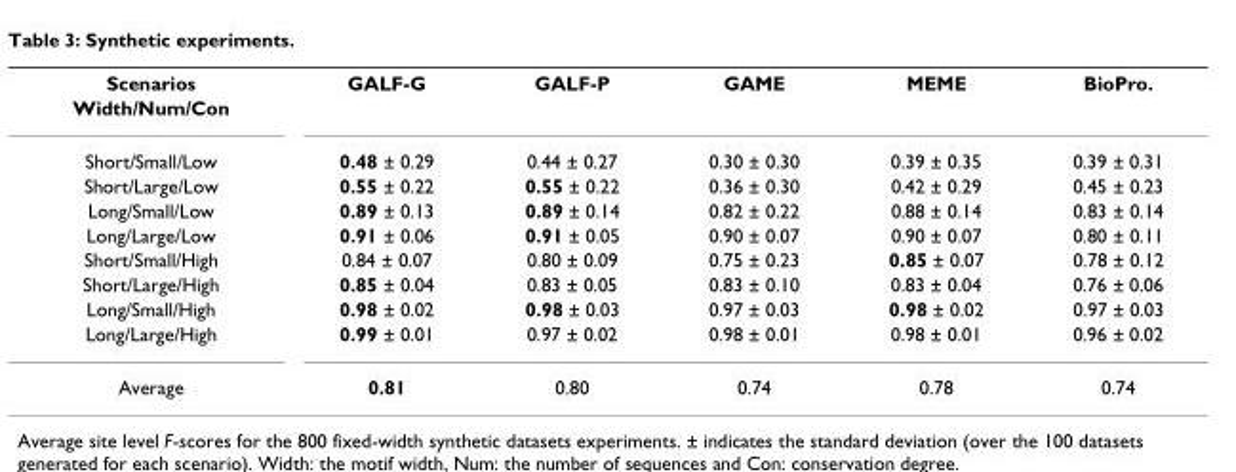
<table><tbody><tr><td>Scenarios</td><td>GALF-G</td><td>GALF-P</td><td>GAME</td><td>MEME</td><td>BioPro.</td></tr><tr><td colspan="6">Width/Num/Con</td></tr><tr><td>Short/Small/Low</td><td>0.48 ± 0.29</td><td>0.44 ± 0.27</td><td>0.30 ± 0.30</td><td>0.39 ± 0.35</td><td>0.39 ± 0.31</td></tr><tr><td>Short/Large/Low</td><td>0.55 ± 0.22</td><td>0.55 ± 0.22</td><td>0.36 ± 0.30</td><td>0.42 ± 0.29</td><td>0.45 ± 0.23</td></tr><tr><td>Long/Small/Low</td><td>0.89 ± 0.13</td><td>0.89 ± 0.14</td><td>0.82 ± 0.22</td><td>0.88 ± 0.14</td><td>0.83 ± 0.14</td></tr><tr><td>Long/Large/Low</td><td>0.91 ± 0.06</td><td>0.91 ± 0.05</td><td>0.90 ± 0.07</td><td>0.90 ± 0.07</td><td>0.80 ± 0.11</td></tr><tr><td>Short/Small/High</td><td>0.84 ± 0.07</td><td>0.80 ± 0.09</td><td>0.75 ± 0.23</td><td>0.85 ± 0.07</td><td>0.78 ± 0.12</td></tr><tr><td>Short/Large/High</td><td>0.85 ± 0.04</td><td>0.83 ± 0.05</td><td>0.83 ± 0.10</td><td>0.83 ± 0.04</td><td>0.76 ± 0.06</td></tr><tr><td>Long/Small/High</td><td>0.98 ± 0.02</td><td>0.98 ± 0.03</td><td>0.97 ± 0.03</td><td>0.98 ± 0.02</td><td>0.97 ± 0.03</td></tr><tr><td>Long/Large/High</td><td>0.99 ± 0.01</td><td>0.97 ± 0.02</td><td>0.98 ± 0.01</td><td>0.98 ± 0.01</td><td>0.96 ± 0.02</td></tr><tr><td>Average</td><td>0.81</td><td>0.80</td><td>0.74</td><td>0.78</td><td>0.74</td></tr></tbody></table>